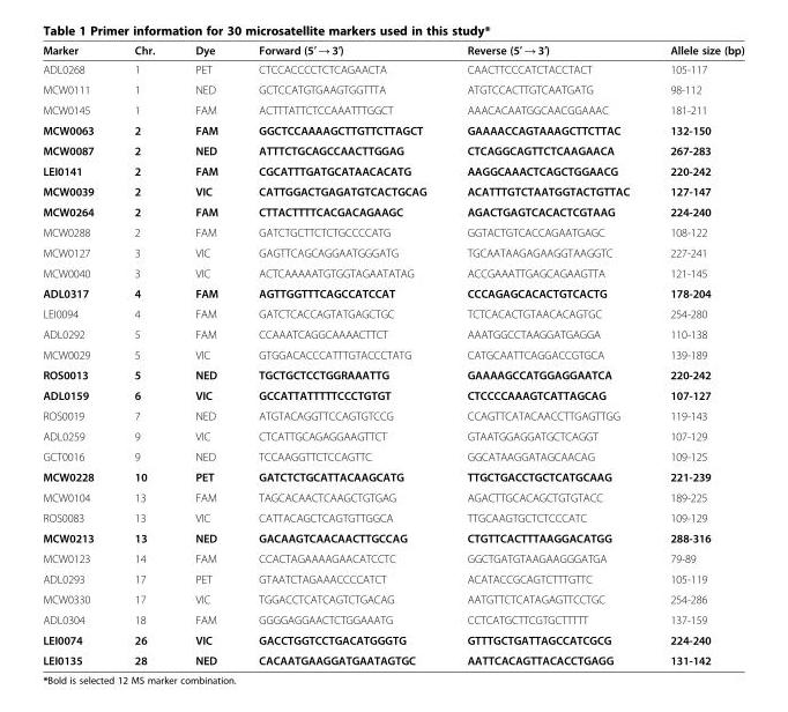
<table><thead><tr><td>Marker</td><td>Chr.</td><td>Dye</td><td>Forward (5′ → 3′)</td><td>Reverse (5′ → 3′)</td><td>Allele size (bp)</td></tr></thead><tbody><tr><td>ADL0268</td><td>1</td><td>PET</td><td>CTCCACCCCTCTCAGAACTA</td><td>CAACTTCCCATCTACCTACT</td><td>105-117</td></tr><tr><td>MCW0111</td><td>1</td><td>NED</td><td>GCTCCATGTGAAGTGGTTTA</td><td>ATGTCCACTTGTCAATGATG</td><td>98-112</td></tr><tr><td>MCW0145</td><td>1</td><td>FAM</td><td>ACTTTATTCTCCAAATTTGGCT</td><td>AAACACAATGGCAACGGAAAC</td><td>181-211</td></tr><tr><td>MCW0063</td><td>2</td><td>FAM</td><td>GGCTCCAAAAGCTTGTTCTTAGCT</td><td>GAAAACCAGTAAAGCTTCTTAC</td><td>132-150</td></tr><tr><td>MCW0087</td><td>2</td><td>NED</td><td>ATTTCTGCAGCCAACTTGGAG</td><td>CTCAGGCAGTTCTCAAGAACA</td><td>267-283</td></tr><tr><td>LEI0141</td><td>2</td><td>FAM</td><td>CGCATTTGATGCATAACACATG</td><td>AAGGCAAACTCAGCTGGAACG</td><td>220-242</td></tr><tr><td>MCW0039</td><td>2</td><td>VIC</td><td>CATTGGACTGAGATGTCACTGCAG</td><td>ACATTTGTCTAATGGTACTGTTAC</td><td>127-147</td></tr><tr><td>MCW0264</td><td>2</td><td>FAM</td><td>CTTACTTTTCACGACAGAAGC</td><td>AGACTGAGTCACACTCGTAAG</td><td>224-240</td></tr><tr><td>MCW0288</td><td>2</td><td>FAM</td><td>GATCTGCTTCTCTGCCCCATG</td><td>GGTACTGTCACCAGAATGAGC</td><td>108-122</td></tr><tr><td>MCW0127</td><td>3</td><td>VIC</td><td>GAGTTCAGCAGGAATGGGATG</td><td>TGCAATAAGAGAAGGTAAGGTC</td><td>227-241</td></tr><tr><td>MCW0040</td><td>3</td><td>VIC</td><td>ACTCAAAAATGTGGTAGAATATAG</td><td>ACCGAAATTGAGCAGAAGTTA</td><td>121-145</td></tr><tr><td>ADL0317</td><td>4</td><td>FAM</td><td>AGTTGGTTTCAGCCATCCAT</td><td>CCCAGAGCACACTGTCACTG</td><td>178-204</td></tr><tr><td>LEI0094</td><td>4</td><td>FAM</td><td>GATCTCACCAGTATGAGCTGC</td><td>TCTCACACTGTAACACAGTGC</td><td>254-280</td></tr><tr><td>ADL0292</td><td>5</td><td>FAM</td><td>CCAAATCAGGCAAAACTTCT</td><td>AAATGGCCTAAGGATGAGGA</td><td>110-138</td></tr><tr><td>MCW0029</td><td>5</td><td>VIC</td><td>GTGGACACCCATTTGTACCCTATG</td><td>CATGCAATTCAGGACCGTGCA</td><td>139-189</td></tr><tr><td>ROS0013</td><td>5</td><td>NED</td><td>TGCTGCTCCTGGRAAATTG</td><td>GAAAAGCCATGGAGGAATCA</td><td>220-242</td></tr><tr><td>ADL0159</td><td>6</td><td>VIC</td><td>GCCATTATTTTTCCCTGTGT</td><td>CTCCCCAAAGTCATTAGCAG</td><td>107-127</td></tr><tr><td>ROS0019</td><td>7</td><td>NED</td><td>ATGTACAGGTTCCAGTGTCCG</td><td>CCAGTTCATACAACCTTGAGTTGG</td><td>119-143</td></tr><tr><td>ADL0259</td><td>9</td><td>VIC</td><td>CTCATTGCAGAGGAAGTTCT</td><td>GTAATGGAGGATGCTCAGGT</td><td>107-129</td></tr><tr><td>GCT0016</td><td>9</td><td>NED</td><td>TCCAAGGTTCTCCAGTTC</td><td>GGCATAAGGATAGCAACAG</td><td>109-125</td></tr><tr><td>MCW0228</td><td>10</td><td>PET</td><td>GATCTCTGCATTACAAGCATG</td><td>TTGCTGACCTGCTCATGCAAG</td><td>221-239</td></tr><tr><td>MCW0104</td><td>13</td><td>FAM</td><td>TAGCACAACTCAAGCTGTGAG</td><td>AGACTTGCACAGCTGTGTACC</td><td>189-225</td></tr><tr><td>ROS0083</td><td>13</td><td>VIC</td><td>CATTACAGCTCAGTGTTGGCA</td><td>TTGCAAGTGCTCTCCCATC</td><td>109-129</td></tr><tr><td>MCW0213</td><td>13</td><td>NED</td><td>GACAAGTCAACAACTTGCCAG</td><td>CTGTTCACTTTAAGGACATGG</td><td>288-316</td></tr><tr><td>MCW0123</td><td>14</td><td>FAM</td><td>CCACTAGAAAAGAACATCCTC</td><td>GGCTGATGTAAGAAGGGATGA</td><td>79-89</td></tr><tr><td>ADL0293</td><td>17</td><td>PET</td><td>GTAATCTAGAAACCCCATCT</td><td>ACATACCGCAGTCTTTGTTC</td><td>105-119</td></tr><tr><td>MCW0330</td><td>17</td><td>VIC</td><td>TGGACCTCATCAGTCTGACAG</td><td>AATGTTCTCATAGAGTTCCTGC</td><td>254-286</td></tr><tr><td>ADL0304</td><td>18</td><td>FAM</td><td>GGGGAGGAACTCTGGAAATG</td><td>CCTCATGCTTCGTGCTTTTT</td><td>137-159</td></tr><tr><td>LEI0074</td><td>26</td><td>VIC</td><td>GACCTGGTCCTGACATGGGTG</td><td>GTTTGCTGATTAGCCATCGCG</td><td>224-240</td></tr><tr><td>LEI0135</td><td>28</td><td>NED</td><td>CACAATGAAGGATGAATAGTGC</td><td>AATTCACAGTTACACCTGAGG</td><td>131-142</td></tr></tbody></table>